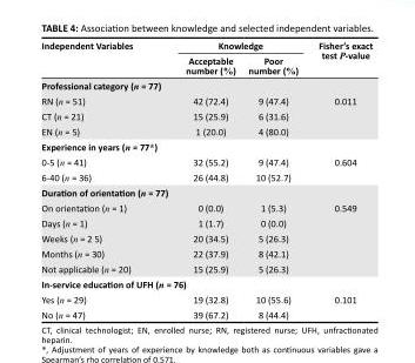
<table><thead><tr><td rowspan="2">Independent Variables</td><td colspan="2">Knowledge</td><td rowspan="2">Fisher’s exact test P-value</td></tr><tr><td>Acceptable number (%)</td><td>Poor number (%)</td></tr></thead><tbody><tr><td colspan="4">Professional category (n = 77)</td></tr><tr><td>RN (n = 51)</td><td>42 (72.4)</td><td>9 (47.4)</td><td>0.011</td></tr><tr><td>CT (n = 21)</td><td>15 (25.9)</td><td>6 (31.6)</td><td></td></tr><tr><td>EN (n = 5)</td><td>1 (20.0)</td><td>4 (80.0)</td><td></td></tr><tr><td colspan="4">Experience in years (n = 77*)</td></tr><tr><td>0-5 (n = 41)</td><td>32 (55.2)</td><td>9 (47.4)</td><td>0.604</td></tr><tr><td>6-40 (n = 36)</td><td>26 (44.8)</td><td>10 (52.7)</td><td></td></tr><tr><td colspan="4">Duration of orientation (n = 77)</td></tr><tr><td>On orientation (n = 1)</td><td>0 (0.0)</td><td>1 (5.3)</td><td>0.549</td></tr><tr><td>Days (n = 1)</td><td>1 (1.7)</td><td>0 (0.0)</td><td></td></tr><tr><td>Weeks (n = 2 5)</td><td>20 (34.5)</td><td>5 (26.3)</td><td></td></tr><tr><td>Months (n = 30)</td><td>22 (37.9)</td><td>8 (42.1)</td><td></td></tr><tr><td>Not applicable (n = 20)</td><td>15 (25.9)</td><td>5 (26.3)</td><td></td></tr><tr><td colspan="4">In-service education of UFH (n = 76)</td></tr><tr><td>Yes (n = 29)</td><td>19 (32.8)</td><td>10 (55.6)</td><td>0.101</td></tr><tr><td>No (n = 47)</td><td>39 (67.2)</td><td>8 (44.4)</td><td></td></tr></tbody></table>